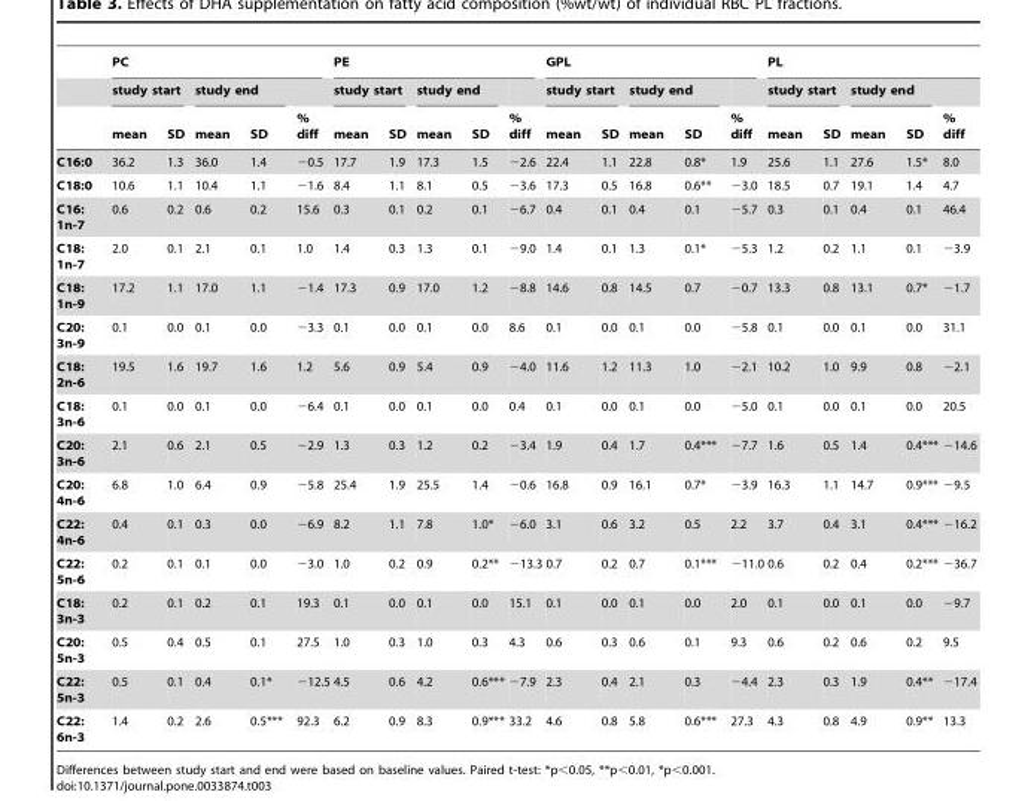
<table><thead><tr><td rowspan="3"></td><td colspan="5">PC</td><td colspan="5">PE</td><td colspan="5">GPL</td><td colspan="5">PL</td></tr><tr><td colspan="2">study start</td><td colspan="2">study end</td><td rowspan="2">% diff</td><td colspan="2">study start</td><td colspan="2">study end</td><td rowspan="2">% diff</td><td colspan="2">study start</td><td colspan="2">study end</td><td rowspan="2">% diff</td><td colspan="2">study start</td><td colspan="2">study end</td><td rowspan="2">% diff</td></tr><tr><td>mean</td><td>SD</td><td>mean</td><td>SD</td><td>mean</td><td>SD</td><td>mean</td><td>SD</td><td>mean</td><td>SD</td><td>mean</td><td>SD</td><td>mean</td><td>SD</td><td>mean</td><td>SD</td></tr></thead><tbody><tr><td>C16:0</td><td>36.2</td><td>1.3</td><td>36.0</td><td>1.4</td><td>−0.5</td><td>17.7</td><td>1.9</td><td>17.3</td><td>1.5</td><td>−2.6</td><td>22.4</td><td>1.1</td><td>22.8</td><td>0.8*</td><td>1.9</td><td>25.6</td><td>1.1</td><td>27.6</td><td>1.5*</td><td>8.0</td></tr><tr><td>C18:0</td><td>10.6</td><td>1.1</td><td>10.4</td><td>1.1</td><td>−1.6</td><td>8.4</td><td>1.1</td><td>8.1</td><td>0.5</td><td>−3.6</td><td>17.3</td><td>0.5</td><td>16.8</td><td>0.6**</td><td>−3.0</td><td>18.5</td><td>0.7</td><td>19.1</td><td>1.4</td><td>4.7</td></tr><tr><td>C16: 1n-7</td><td>0.6</td><td>0.2</td><td>0.6</td><td>0.2</td><td>15.6</td><td>0.3</td><td>0.1</td><td>0.2</td><td>0.1</td><td>−6.7</td><td>0.4</td><td>0.1</td><td>0.4</td><td>0.1</td><td>−5.7</td><td>0.3</td><td>0.1</td><td>0.4</td><td>0.1</td><td>46.4</td></tr><tr><td>C18: 1n-7</td><td>2.0</td><td>0.1</td><td>2.1</td><td>0.1</td><td>1.0</td><td>1.4</td><td>0.3</td><td>1.3</td><td>0.1</td><td>−9.0</td><td>1.4</td><td>0.1</td><td>1.3</td><td>0.1*</td><td>−5.3</td><td>1.2</td><td>0.2</td><td>1.1</td><td>0.1</td><td>−3.9</td></tr><tr><td>C18: 1n-9</td><td>17.2</td><td>1.1</td><td>17.0</td><td>1.1</td><td>−1.4</td><td>17.3</td><td>0.9</td><td>17.0</td><td>1.2</td><td>−8.8</td><td>14.6</td><td>0.8</td><td>14.5</td><td>0.7</td><td>−0.7</td><td>13.3</td><td>0.8</td><td>13.1</td><td>0.7*</td><td>−1.7</td></tr><tr><td>C20: 3n-9</td><td>0.1</td><td>0.0</td><td>0.1</td><td>0.0</td><td>−3.3</td><td>0.1</td><td>0.0</td><td>0.1</td><td>0.0</td><td>8.6</td><td>0.1</td><td>0.0</td><td>0.1</td><td>0.0</td><td>−5.8</td><td>0.1</td><td>0.0</td><td>0.1</td><td>0.0</td><td>31.1</td></tr><tr><td>C18: 2n-6</td><td>19.5</td><td>1.6</td><td>19.7</td><td>1.6</td><td>1.2</td><td>5.6</td><td>0.9</td><td>5.4</td><td>0.9</td><td>−4.0</td><td>11.6</td><td>1.2</td><td>11.3</td><td>1.0</td><td>−2.1</td><td>10.2</td><td>1.0</td><td>9.9</td><td>0.8</td><td>−2.1</td></tr><tr><td>C18: 3n-6</td><td>0.1</td><td>0.0</td><td>0.1</td><td>0.0</td><td>−6.4</td><td>0.1</td><td>0.0</td><td>0.1</td><td>0.0</td><td>0.4</td><td>0.1</td><td>0.0</td><td>0.1</td><td>0.0</td><td>−5.0</td><td>0.1</td><td>0.0</td><td>0.1</td><td>0.0</td><td>20.5</td></tr><tr><td>C20: 3n-6</td><td>2.1</td><td>0.6</td><td>2.1</td><td>0.5</td><td>−2.9</td><td>1.3</td><td>0.3</td><td>1.2</td><td>0.2</td><td>−3.4</td><td>1.9</td><td>0.4</td><td>1.7</td><td>0.4***</td><td>−7.7</td><td>1.6</td><td>0.5</td><td>1.4</td><td>0.4***</td><td>−14.6</td></tr><tr><td>C20: 4n-6</td><td>6.8</td><td>1.0</td><td>6.4</td><td>0.9</td><td>−5.8</td><td>25.4</td><td>1.9</td><td>25.5</td><td>1.4</td><td>−0.6</td><td>16.8</td><td>0.9</td><td>16.1</td><td>0.7*</td><td>−3.9</td><td>16.3</td><td>1.1</td><td>14.7</td><td>0.9***</td><td>−9.5</td></tr><tr><td>C22: 4n-6</td><td>0.4</td><td>0.1</td><td>0.3</td><td>0.0</td><td>−6.9</td><td>8.2</td><td>1.1</td><td>7.8</td><td>1.0*</td><td>−6.0</td><td>3.1</td><td>0.6</td><td>3.2</td><td>0.5</td><td>2.2</td><td>3.7</td><td>0.4</td><td>3.1</td><td>0.4***</td><td>−16.2</td></tr><tr><td>C22: 5n-6</td><td>0.2</td><td>0.1</td><td>0.1</td><td>0.0</td><td>−3.0</td><td>1.0</td><td>0.2</td><td>0.9</td><td>0.2**</td><td>−13.3</td><td>0.7</td><td>0.2</td><td>0.7</td><td>0.1***</td><td>−11.0</td><td>0.6</td><td>0.2</td><td>0.4</td><td>0.2***</td><td>−36.7</td></tr><tr><td>C18: 3n-3</td><td>0.2</td><td>0.1</td><td>0.2</td><td>0.1</td><td>19.3</td><td>0.1</td><td>0.0</td><td>0.1</td><td>0.0</td><td>15.1</td><td>0.1</td><td>0.0</td><td>0.1</td><td>0.0</td><td>2.0</td><td>0.1</td><td>0.0</td><td>0.1</td><td>0.0</td><td>−9.7</td></tr><tr><td>C20: 5n-3</td><td>0.5</td><td>0.4</td><td>0.5</td><td>0.1</td><td>27.5</td><td>1.0</td><td>0.3</td><td>1.0</td><td>0.3</td><td>4.3</td><td>0.6</td><td>0.3</td><td>0.6</td><td>0.1</td><td>9.3</td><td>0.6</td><td>0.2</td><td>0.6</td><td>0.2</td><td>9.5</td></tr><tr><td>C22: 5n-3</td><td>0.5</td><td>0.1</td><td>0.4</td><td>0.1*</td><td>−12.5</td><td>4.5</td><td>0.6</td><td>4.2</td><td>0.6***</td><td>−7.9</td><td>2.3</td><td>0.4</td><td>2.1</td><td>0.3</td><td>−4.4</td><td>2.3</td><td>0.3</td><td>1.9</td><td>0.4**</td><td>−17.4</td></tr><tr><td>C22: 6n-3</td><td>1.4</td><td>0.2</td><td>2.6</td><td>0.5***</td><td>92.3</td><td>6.2</td><td>0.9</td><td>8.3</td><td>0.9***</td><td>33.2</td><td>4.6</td><td>0.8</td><td>5.8</td><td>0.6***</td><td>27.3</td><td>4.3</td><td>0.8</td><td>4.9</td><td>0.9**</td><td>13.3</td></tr></tbody></table>